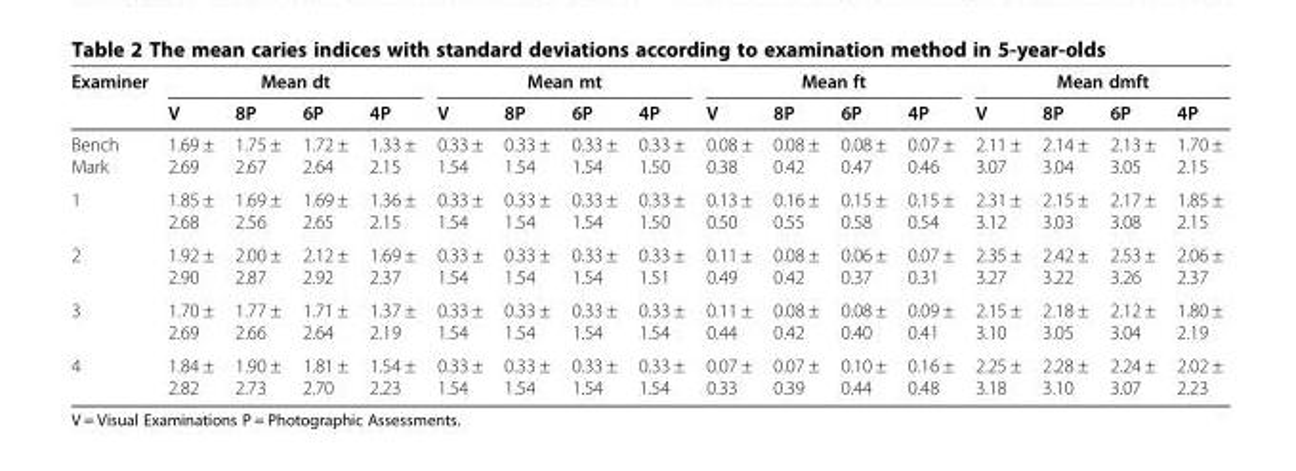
<table><thead><tr><td rowspan="2">Examiner</td><td colspan="4">Mean dt</td><td colspan="4">Mean mt</td><td colspan="4">Mean ft</td><td colspan="4">Mean dmft</td></tr><tr><td>V</td><td>8P</td><td>6P</td><td>4P</td><td>V</td><td>8P</td><td>6P</td><td>4P</td><td>V</td><td>8P</td><td>6P</td><td>4P</td><td>V</td><td>8P</td><td>6P</td><td>4P</td></tr></thead><tbody><tr><td>Bench Mark</td><td>1.69 ± 2.69</td><td>1.75 ± 2.67</td><td>1.72 ± 2.64</td><td>1.33 ± 2.15</td><td>0.33 ± 1.54</td><td>0.33 ± 1.54</td><td>0.33 ± 1.54</td><td>0.33 ± 1.50</td><td>0.08 ± 0.38</td><td>0.08 ± 0.42</td><td>0.08 ± 0.47</td><td>0.07 ± 0.46</td><td>2.11 ± 3.07</td><td>2.14 ± 3.04</td><td>2.13 ± 3.05</td><td>1.70 ± 2.15</td></tr><tr><td>1</td><td>1.85 ± 2.68</td><td>1.69 ± 2.56</td><td>1.69 ± 2.65</td><td>1.36 ± 2.15</td><td>0.33 ± 1.54</td><td>0.33 ± 1.54</td><td>0.33 ± 1.54</td><td>0.33 ± 1.50</td><td>0.13 ± 0.50</td><td>0.16 ± 0.55</td><td>0.15 ± 0.58</td><td>0.15 ± 0.54</td><td>2.31 ± 3.12</td><td>2.15 ± 3.03</td><td>2.17 ± 3.08</td><td>1.85 ± 2.15</td></tr><tr><td>2</td><td>1.92 ± 2.90</td><td>2.00 ± 2.87</td><td>2.12 ± 2.92</td><td>1.69 ± 2.37</td><td>0.33 ± 1.54</td><td>0.33 ± 1.54</td><td>0.33 ± 1.54</td><td>0.33 ± 1.51</td><td>0.11 ± 0.49</td><td>0.08 ± 0.42</td><td>0.06 ± 0.37</td><td>0.07 ± 0.31</td><td>2.35 ± 3.27</td><td>2.42 ± 3.22</td><td>2.53 ± 3.26</td><td>2.06 ± 2.37</td></tr><tr><td>3</td><td>1.70 ± 2.69</td><td>1.77 ± 2.66</td><td>1.71 ± 2.64</td><td>1.37 ± 2.19</td><td>0.33 ± 1.54</td><td>0.33 ± 1.54</td><td>0.33 ± 1.54</td><td>0.33 ± 1.54</td><td>0.11 ± 0.44</td><td>0.08 ± 0.42</td><td>0.08 ± 0.40</td><td>0.09 ± 0.41</td><td>2.15 ± 3.10</td><td>2.18 ± 3.05</td><td>2.12 ± 3.04</td><td>1.80 ± 2.19</td></tr><tr><td>4</td><td>1.84 ± 2.82</td><td>1.90 ± 2.73</td><td>1.81 ± 2.70</td><td>1.54 ± 2.23</td><td>0.33 ± 1.54</td><td>0.33 ± 1.54</td><td>0.33 ± 1.54</td><td>0.33 ± 1.54</td><td>0.07 ± 0.33</td><td>0.07 ± 0.39</td><td>0.10 ± 0.44</td><td>0.16 ± 0.48</td><td>2.25 ± 3.18</td><td>2.28 ± 3.10</td><td>2.24 ± 3.07</td><td>2.02 ± 2.23</td></tr></tbody></table>